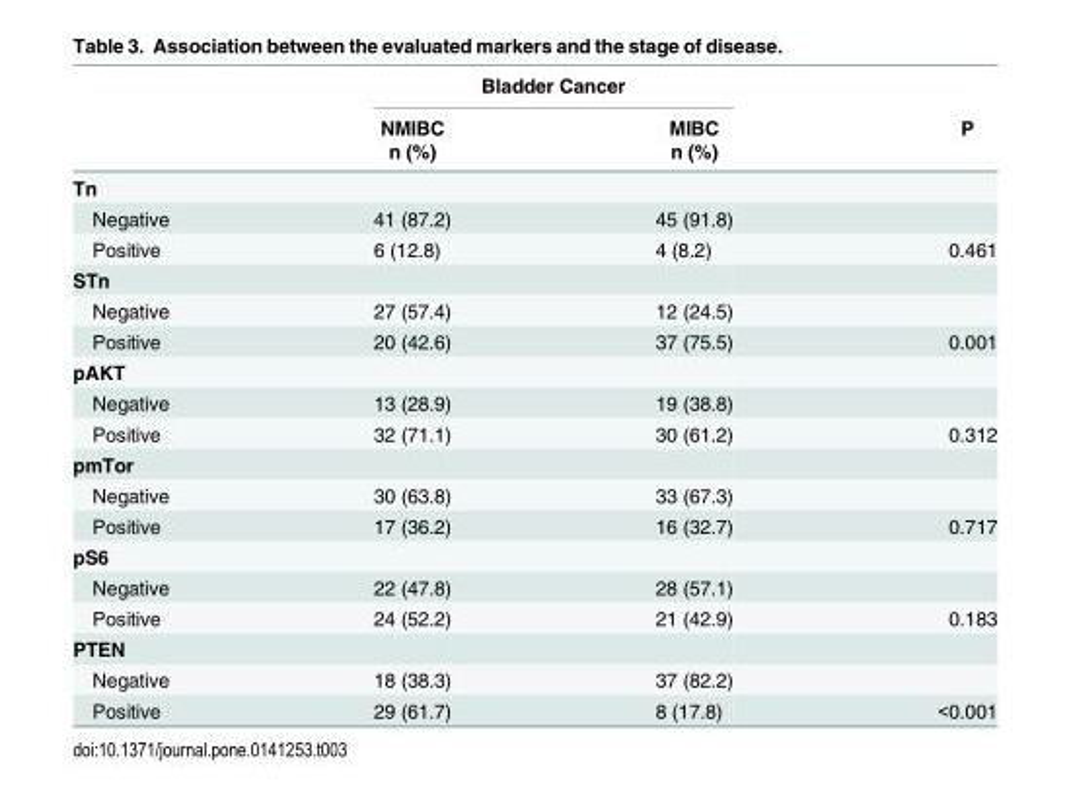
<table><thead><tr><td rowspan="3"></td><td colspan="2">Bladder Cancer</td><td rowspan="3">P</td></tr><tr><td rowspan="2">NMIBC n (%)</td><td rowspan="2">MIBC n (%)</td></tr><tr></tr></thead><tbody><tr><td colspan="4">Tn</td></tr><tr><td>Negative</td><td>41 (87.2)</td><td>45 (91.8)</td><td></td></tr><tr><td>Positive</td><td>6 (12.8)</td><td>4 (8.2)</td><td>0.461</td></tr><tr><td colspan="4">STn</td></tr><tr><td>Negative</td><td>27 (57.4)</td><td>12 (24.5)</td><td></td></tr><tr><td>Positive</td><td>20 (42.6)</td><td>37 (75.5)</td><td>0.001</td></tr><tr><td colspan="4">pAKT</td></tr><tr><td>Negative</td><td>13 (28.9)</td><td>19 (38.8)</td><td></td></tr><tr><td>Positive</td><td>32 (71.1)</td><td>30 (61.2)</td><td>0.312</td></tr><tr><td colspan="4">pmTor</td></tr><tr><td>Negative</td><td>30 (63.8)</td><td>33 (67.3)</td><td></td></tr><tr><td>Positive</td><td>17 (36.2)</td><td>16 (32.7)</td><td>0.717</td></tr><tr><td colspan="4">pS6</td></tr><tr><td>Negative</td><td>22 (47.8)</td><td>28 (57.1)</td><td></td></tr><tr><td>Positive</td><td>24 (52.2)</td><td>21 (42.9)</td><td>0.183</td></tr><tr><td colspan="4">PTEN</td></tr><tr><td>Negative</td><td>18 (38.3)</td><td>37 (82.2)</td><td></td></tr><tr><td>Positive</td><td>29 (61.7)</td><td>8 (17.8)</td><td>&lt;0.001</td></tr></tbody></table>